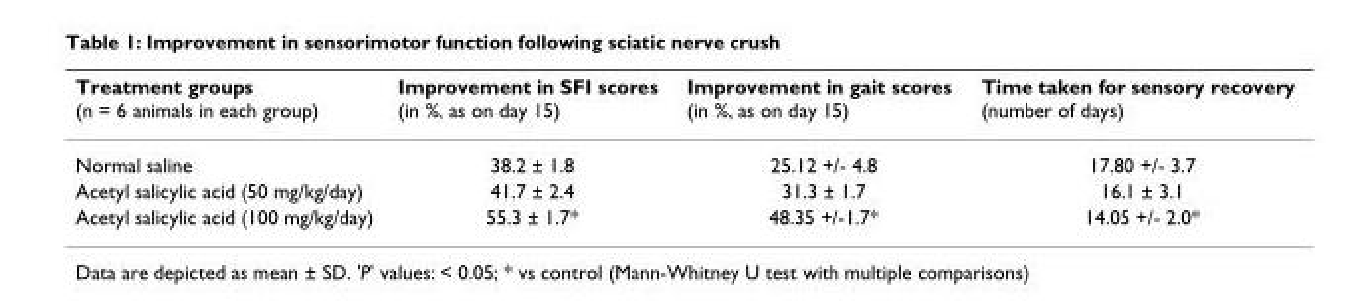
<table><thead><tr><td>Treatment groups (n = 6 animals in each group)</td><td>Improvement in SFI scores (in %, as on day 15)</td><td>Improvement in gait scores (in %, as on day 15)</td><td>Time taken for sensory recovery (number of days)</td></tr></thead><tbody><tr><td>Normal saline</td><td>38.2 ± 1.8</td><td>25.12 +/- 4.8</td><td>17.80 +/- 3.7</td></tr><tr><td>Acetyl salicylic acid (50 mg/kg/day)</td><td>41.7 ± 2.4</td><td>31.3 ± 1.7</td><td>16.1 ± 3.1</td></tr><tr><td>Acetyl salicylic acid (100 mg/kg/day)</td><td>55.3 ± 1.7*</td><td>48.35 +/-1.7*</td><td>14.05 +/- 2.0*</td></tr></tbody></table>